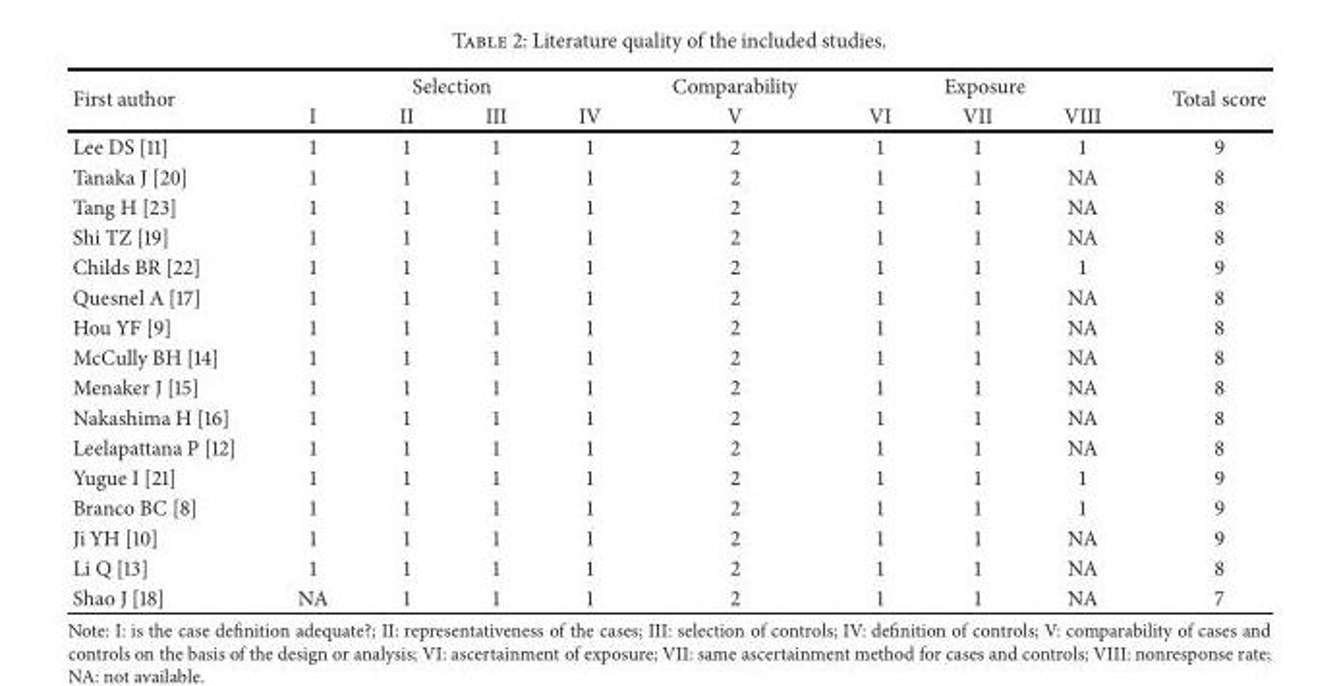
<table><thead><tr><td rowspan="2">First author</td><td colspan="4">Selection</td><td rowspan="2">Comparability V</td><td colspan="3">Exposure</td><td rowspan="2">Total score</td></tr><tr><td>I</td><td>II</td><td>III</td><td>IV</td><td>VI</td><td>VII</td><td>VIII</td></tr></thead><tbody><tr><td>Lee DS [11]</td><td>1</td><td>1</td><td>1</td><td>1</td><td>2</td><td>1</td><td>1</td><td>1</td><td>9</td></tr><tr><td>Tanaka J [20]</td><td>1</td><td>1</td><td>1</td><td>1</td><td>2</td><td>1</td><td>1</td><td>NA</td><td>8</td></tr><tr><td>Tang H [23]</td><td>1</td><td>1</td><td>1</td><td>1</td><td>2</td><td>1</td><td>1</td><td>NA</td><td>8</td></tr><tr><td>Shi TZ [19]</td><td>1</td><td>1</td><td>1</td><td>1</td><td>2</td><td>1</td><td>1</td><td>NA</td><td>8</td></tr><tr><td>Childs BR [22]</td><td>1</td><td>1</td><td>1</td><td>1</td><td>2</td><td>1</td><td>1</td><td>1</td><td>9</td></tr><tr><td>Quesnel A [17]</td><td>1</td><td>1</td><td>1</td><td>1</td><td>2</td><td>1</td><td>1</td><td>NA</td><td>8</td></tr><tr><td>Hou YF [9]</td><td>1</td><td>1</td><td>1</td><td>1</td><td>2</td><td>1</td><td>1</td><td>NA</td><td>8</td></tr><tr><td>McCully BH [14]</td><td>1</td><td>1</td><td>1</td><td>1</td><td>2</td><td>1</td><td>1</td><td>NA</td><td>8</td></tr><tr><td>Menaker J [15]</td><td>1</td><td>1</td><td>1</td><td>1</td><td>2</td><td>1</td><td>1</td><td>NA</td><td>8</td></tr><tr><td>Nakashima H [16]</td><td>1</td><td>1</td><td>1</td><td>1</td><td>2</td><td>1</td><td>1</td><td>NA</td><td>8</td></tr><tr><td>Leelapattana P [12]</td><td>1</td><td>1</td><td>1</td><td>1</td><td>2</td><td>1</td><td>1</td><td>NA</td><td>8</td></tr><tr><td>Yugue I [21]</td><td>1</td><td>1</td><td>1</td><td>1</td><td>2</td><td>1</td><td>1</td><td>1</td><td>9</td></tr><tr><td>Branco BC [8]</td><td>1</td><td>1</td><td>1</td><td>1</td><td>2</td><td>1</td><td>1</td><td>1</td><td>9</td></tr><tr><td>Ji YH [10]</td><td>1</td><td>1</td><td>1</td><td>1</td><td>2</td><td>1</td><td>1</td><td>NA</td><td>9</td></tr><tr><td>Li Q [13]</td><td>1</td><td>1</td><td>1</td><td>1</td><td>2</td><td>1</td><td>1</td><td>NA</td><td>8</td></tr><tr><td>Shao J [18]</td><td>NA</td><td>1</td><td>1</td><td>1</td><td>2</td><td>1</td><td>1</td><td>NA</td><td>7</td></tr></tbody></table>